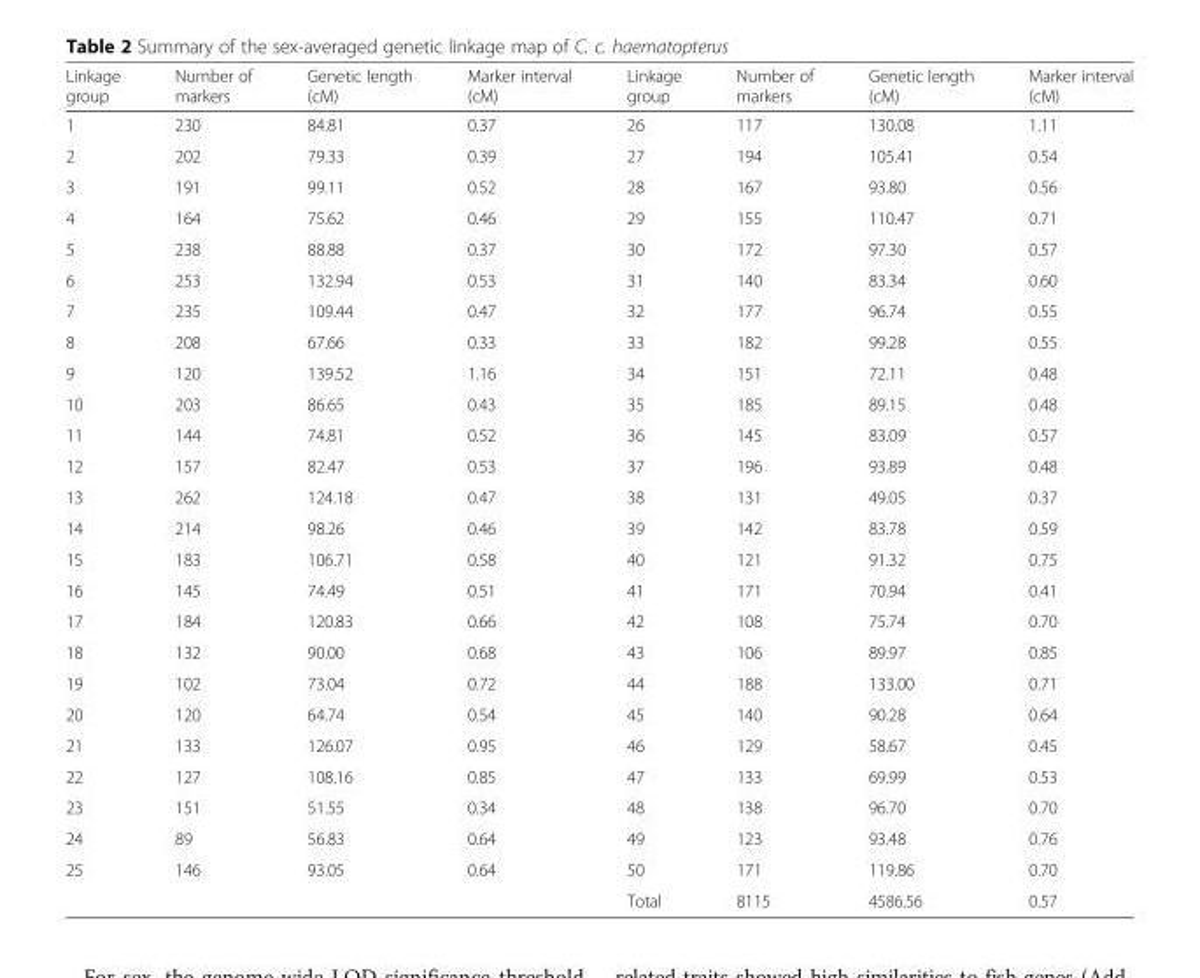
<table><thead><tr><td>Linkage group</td><td>Number of markers</td><td>Genetic length (cM)</td><td>Marker interval (cM)</td><td>Linkage group</td><td>Number of markers</td><td>Genetic length (cM)</td><td>Marker interval (cM)</td></tr></thead><tbody><tr><td>1</td><td>230</td><td>84.81</td><td>0.37</td><td>26</td><td>117</td><td>130.08</td><td>1.11</td></tr><tr><td>2</td><td>202</td><td>79.33</td><td>0.39</td><td>27</td><td>194</td><td>105.41</td><td>0.54</td></tr><tr><td>3</td><td>191</td><td>99.11</td><td>0.52</td><td>28</td><td>167</td><td>93.80</td><td>0.56</td></tr><tr><td>4</td><td>164</td><td>75.62</td><td>0.46</td><td>29</td><td>155</td><td>110.47</td><td>0.71</td></tr><tr><td>5</td><td>238</td><td>88.88</td><td>0.37</td><td>30</td><td>172</td><td>97.30</td><td>0.57</td></tr><tr><td>6</td><td>253</td><td>132.94</td><td>0.53</td><td>31</td><td>140</td><td>83.34</td><td>0.60</td></tr><tr><td>7</td><td>235</td><td>109.44</td><td>0.47</td><td>32</td><td>177</td><td>96.74</td><td>0.55</td></tr><tr><td>8</td><td>208</td><td>67.66</td><td>0.33</td><td>33</td><td>182</td><td>99.28</td><td>0.55</td></tr><tr><td>9</td><td>120</td><td>139.52</td><td>1.16</td><td>34</td><td>151</td><td>72.11</td><td>0.48</td></tr><tr><td>10</td><td>203</td><td>86.65</td><td>0.43</td><td>35</td><td>185</td><td>89.15</td><td>0.48</td></tr><tr><td>11</td><td>144</td><td>74.81</td><td>0.52</td><td>36</td><td>145</td><td>83.09</td><td>0.57</td></tr><tr><td>12</td><td>157</td><td>82.47</td><td>0.53</td><td>37</td><td>196</td><td>93.89</td><td>0.48</td></tr><tr><td>13</td><td>262</td><td>124.18</td><td>0.47</td><td>38</td><td>131</td><td>49.05</td><td>0.37</td></tr><tr><td>14</td><td>214</td><td>98.26</td><td>0.46</td><td>39</td><td>142</td><td>83.78</td><td>0.59</td></tr><tr><td>15</td><td>183</td><td>106.71</td><td>0.58</td><td>40</td><td>121</td><td>91.32</td><td>0.75</td></tr><tr><td>16</td><td>145</td><td>74.49</td><td>0.51</td><td>41</td><td>171</td><td>70.94</td><td>0.41</td></tr><tr><td>17</td><td>184</td><td>120.83</td><td>0.66</td><td>42</td><td>108</td><td>75.74</td><td>0.70</td></tr><tr><td>18</td><td>132</td><td>90.00</td><td>0.68</td><td>43</td><td>106</td><td>89.97</td><td>0.85</td></tr><tr><td>19</td><td>102</td><td>73.04</td><td>0.72</td><td>44</td><td>188</td><td>133.00</td><td>0.71</td></tr><tr><td>20</td><td>120</td><td>64.74</td><td>0.54</td><td>45</td><td>140</td><td>90.28</td><td>0.64</td></tr><tr><td>21</td><td>133</td><td>126.07</td><td>0.95</td><td>46</td><td>129</td><td>58.67</td><td>0.45</td></tr><tr><td>22</td><td>127</td><td>108.16</td><td>0.85</td><td>47</td><td>133</td><td>69.99</td><td>0.53</td></tr><tr><td>23</td><td>151</td><td>51.55</td><td>0.34</td><td>48</td><td>138</td><td>96.70</td><td>0.70</td></tr><tr><td>24</td><td>89</td><td>56.83</td><td>0.64</td><td>49</td><td>123</td><td>93.48</td><td>0.76</td></tr><tr><td rowspan="2">25</td><td>146</td><td>93.05</td><td>0.64</td><td>50</td><td>171</td><td>119.86</td><td>0.70</td></tr><tr><td></td><td></td><td></td><td>Total</td><td>8115</td><td>4586.56</td><td>0.57</td></tr></tbody></table>